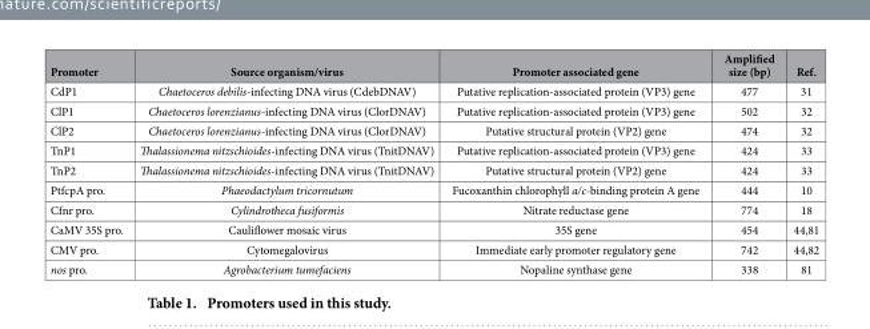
<table><thead><tr><td>Promoter</td><td>Source organism/virus</td><td>Promoter associated gene</td><td>Amplified size (bp)</td><td>Ref.</td></tr></thead><tbody><tr><td>CdP1</td><td>Chaetoceros debilis-infecting DNA virus (CdebDNAV)</td><td>Putative replication-associated protein (VP3) gene</td><td>477</td><td>31</td></tr><tr><td>ClP1</td><td>Chaetoceros lorenzianus-infecting DNA virus (ClorDNAV)</td><td>Putative replication-associated protein (VP3) gene</td><td>502</td><td>32</td></tr><tr><td>ClP2</td><td>Chaetoceros lorenzianus-infecting DNA virus (ClorDNAV)</td><td>Putative structural protein (VP2) gene</td><td>474</td><td>32</td></tr><tr><td>TnP1</td><td>Thalassionema nitzschioides-infecting DNA virus (TnitDNAV)</td><td>Putative replication-associated protein (VP3) gene</td><td>424</td><td>33</td></tr><tr><td>TnP2</td><td>Thalassionema nitzschioides-infecting DNA virus (TnitDNAV)</td><td>Putative structural protein (VP2) gene</td><td>424</td><td>33</td></tr><tr><td>PtfcpA pro.</td><td>Phaeodactylum tricornutum</td><td>Fucoxanthin chlorophyll a/c-binding protein A gene</td><td>444</td><td>10</td></tr><tr><td>Cfnr pro.</td><td>Cylindrotheca fusiformis</td><td>Nitrate reductase gene</td><td>774</td><td>18</td></tr><tr><td>CaMV 35S pro.</td><td>Cauliflower mosaic virus</td><td>35S gene</td><td>454</td><td>44,81</td></tr><tr><td>CMV pro.</td><td>Cytomegalovirus</td><td>Immediate early promoter regulatory gene</td><td>742</td><td>44,82</td></tr><tr><td>nos pro.</td><td>Agrobacterium tumefaciens</td><td>Nopaline synthase gene</td><td>338</td><td>81</td></tr></tbody></table>